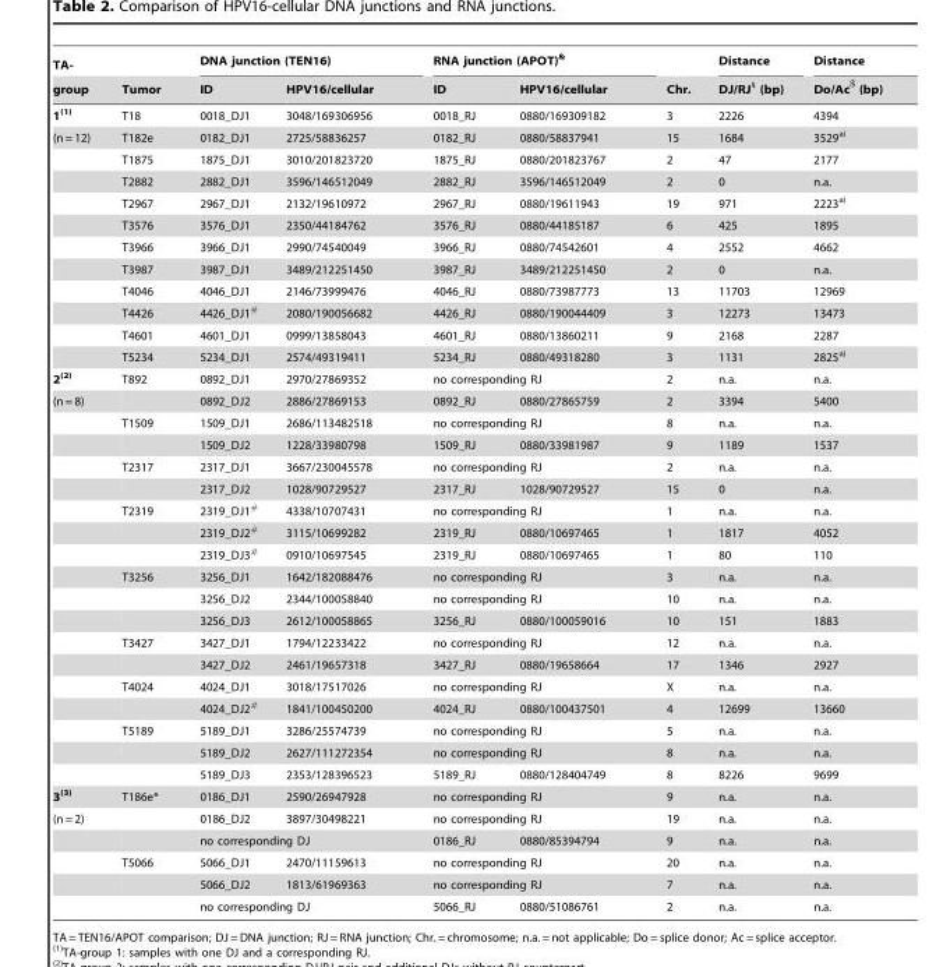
<table><thead><tr><td rowspan="2">TA- group</td><td rowspan="2">Tumor</td><td colspan="2">DNA junction (TEN16)</td><td colspan="2">RNA junction (APOT)&amp;</td><td rowspan="2">Chr.</td><td rowspan="2">Distance DJ/RJ§ (bp)</td><td rowspan="2">Distance Do/Ac$ (bp)</td></tr><tr><td>ID</td><td>HPV16/cellular</td><td>ID</td><td>HPV16/cellular</td></tr></thead><tbody><tr><td>1(1)</td><td>T18</td><td>0018_DJ1</td><td>3048/169306956</td><td>0018_RJ</td><td>0880/169309182</td><td>3</td><td>2226</td><td>4394</td></tr><tr><td rowspan="11">(n = 12)</td><td>T182e</td><td>0182_DJ1</td><td>2725/58836257</td><td>0182_RJ</td><td>0880/58837941</td><td>15</td><td>1684</td><td>3529a)</td></tr><tr><td>T1875</td><td>1875_DJ1</td><td>3010/201823720</td><td>1875_RJ</td><td>0880/201823767</td><td>2</td><td>47</td><td>2177</td></tr><tr><td>T2882</td><td>2882_DJ1</td><td>3596/146512049</td><td>2882_RJ</td><td>3596/146512049</td><td>2</td><td>0</td><td>n.a.</td></tr><tr><td>T2967</td><td>2967_DJ1</td><td>2132/19610972</td><td>2967_RJ</td><td>0880/19611943</td><td>19</td><td>971</td><td>2223a)</td></tr><tr><td>T3576</td><td>3576_DJ1</td><td>2350/44184762</td><td>3576_RJ</td><td>0880/44185187</td><td>6</td><td>425</td><td>1895</td></tr><tr><td>T3966</td><td>3966_DJ1</td><td>2990/74540049</td><td>3966_RJ</td><td>0880/74542601</td><td>4</td><td>2552</td><td>4662</td></tr><tr><td>T3987</td><td>3987_DJ1</td><td>3489/212251450</td><td>3987_RJ</td><td>3489/212251450</td><td>2</td><td>0</td><td>n.a.</td></tr><tr><td>T4046</td><td>4046_DJ1</td><td>2146/73999476</td><td>4046_RJ</td><td>0880/73987773</td><td>13</td><td>11703</td><td>12969</td></tr><tr><td>T4426</td><td>4426_DJ1#</td><td>2080/190056682</td><td>4426_RJ</td><td>0880/190044409</td><td>3</td><td>12273</td><td>13473</td></tr><tr><td>T4601</td><td>4601_DJ1</td><td>0999/13858043</td><td>4601_RJ</td><td>0880/13860211</td><td>9</td><td>2168</td><td>2287</td></tr><tr><td>T5234</td><td>5234_DJ1</td><td>2574/49319411</td><td>5234_RJ</td><td>0880/49318280</td><td>3</td><td>1131</td><td>2825a)</td></tr><tr><td>2(2)</td><td>T892</td><td>0892_DJ1</td><td>2970/27869352</td><td colspan="2">no corresponding RJ</td><td>2</td><td>n.a.</td><td>n.a.</td></tr><tr><td rowspan="18">(n = 8)</td><td></td><td>0892_DJ2</td><td>2886/27869153</td><td>0892_RJ</td><td>0880/27865759</td><td>2</td><td>3394</td><td>5400</td></tr><tr><td>T1509</td><td>1509_DJ1</td><td>2686/113482518</td><td colspan="2">no corresponding RJ</td><td>8</td><td>n.a.</td><td>n.a.</td></tr><tr><td></td><td>1509_DJ2</td><td>1228/33980798</td><td>1509_RJ</td><td>0880/33981987</td><td>9</td><td>1189</td><td>1537</td></tr><tr><td>T2317</td><td>2317_DJ1</td><td>3667/230045578</td><td colspan="2">no corresponding RJ</td><td>2</td><td>n.a.</td><td>n.a.</td></tr><tr><td></td><td>2317_DJ2</td><td>1028/90729527</td><td>2317_RJ</td><td>1028/90729527</td><td>15</td><td>0</td><td>n.a.</td></tr><tr><td>T2319</td><td>2319_DJ1#</td><td>4338/10707431</td><td colspan="2">no corresponding RJ</td><td>1</td><td>n.a.</td><td>n.a.</td></tr><tr><td></td><td>2319_DJ2#</td><td>3115/10699282</td><td>2319_RJ</td><td>0880/10697465</td><td>1</td><td>1817</td><td>4052</td></tr><tr><td></td><td>2319_DJ3#</td><td>0910/10697545</td><td>2319_RJ</td><td>0880/10697465</td><td>1</td><td>80</td><td>110</td></tr><tr><td>T3256</td><td>3256_DJ1</td><td>1642/182088476</td><td colspan="2">no corresponding RJ</td><td>3</td><td>n.a.</td><td>n.a.</td></tr><tr><td></td><td>3256_DJ2</td><td>2344/100058840</td><td colspan="2">no corresponding RJ</td><td>10</td><td>n.a.</td><td>n.a.</td></tr><tr><td></td><td>3256_DJ3</td><td>2612/100058865</td><td>3256_RJ</td><td>0880/100059016</td><td>10</td><td>151</td><td>1883</td></tr><tr><td>T3427</td><td>3427_DJ1</td><td>1794/12233422</td><td colspan="2">no corresponding RJ</td><td>12</td><td>n.a.</td><td>n.a.</td></tr><tr><td></td><td>3427_DJ2</td><td>2461/19657318</td><td>3427_RJ</td><td>0880/19658664</td><td>17</td><td>1346</td><td>2927</td></tr><tr><td>T4024</td><td>4024_DJ1</td><td>3018/17517026</td><td colspan="2">no corresponding RJ</td><td>X</td><td>n.a.</td><td>n.a.</td></tr><tr><td></td><td>4024_DJ2#</td><td>1841/100450200</td><td>4024_RJ</td><td>0880/100437501</td><td>4</td><td>12699</td><td>13660</td></tr><tr><td>T5189</td><td>5189_DJ1</td><td>3286/25574739</td><td colspan="2">no corresponding RJ</td><td>5</td><td>n.a.</td><td>n.a.</td></tr><tr><td></td><td>5189_DJ2</td><td>2627/111272354</td><td colspan="2">no corresponding RJ</td><td>8</td><td>n.a.</td><td>n.a.</td></tr><tr><td></td><td>5189_DJ3</td><td>2353/128396523</td><td>5189_RJ</td><td>0880/128404749</td><td>8</td><td>8226</td><td>9699</td></tr><tr><td>3(3)</td><td>T186e*</td><td>0186_DJ1</td><td>2590/26947928</td><td colspan="2">no corresponding RJ</td><td>9</td><td>n.a.</td><td>n.a.</td></tr><tr><td rowspan="5">(n = 2)</td><td></td><td>0186_DJ2</td><td>3897/30498221</td><td colspan="2">no corresponding RJ</td><td>19</td><td>n.a.</td><td>n.a.</td></tr><tr><td></td><td colspan="2">no corresponding DJ</td><td>0186_RJ</td><td>0880/85394794</td><td>9</td><td>n.a.</td><td>n.a.</td></tr><tr><td>T5066</td><td>5066_DJ1</td><td>2470/11159613</td><td colspan="2">no corresponding RJ</td><td>20</td><td>n.a.</td><td>n.a.</td></tr><tr><td></td><td>5066_DJ2</td><td>1813/61969363</td><td colspan="2">no corresponding RJ</td><td>7</td><td>n.a.</td><td>n.a.</td></tr><tr><td></td><td colspan="2">no corresponding DJ</td><td>5066_RJ</td><td>0880/51086761</td><td>2</td><td>n.a.</td><td>n.a.</td></tr></tbody></table>